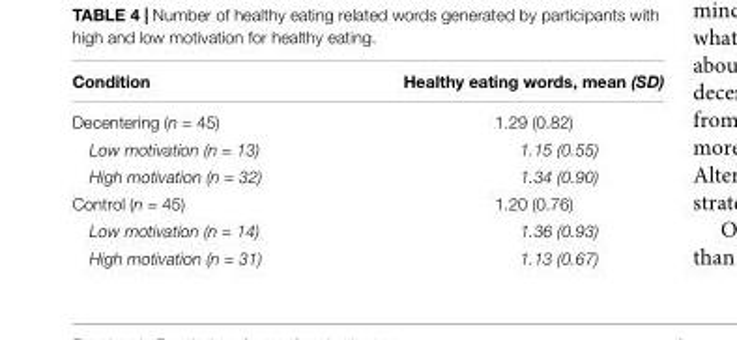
<table><thead><tr><td>Condition</td><td>Healthy eating words, mean (SD)</td></tr></thead><tbody><tr><td>Decentering (n = 45)</td><td>1.29 (0.82)</td></tr><tr><td>Low motivation (n = 13)</td><td>1.15 (0.55)</td></tr><tr><td>High motivation (n = 32)</td><td>1.34 (0.90)</td></tr><tr><td>Control (n = 45)</td><td>1.20 (0.76)</td></tr><tr><td>Low motivation (n = 14)</td><td>1.36 (0.93)</td></tr><tr><td>High motivation (n = 31)</td><td>1.13 (0.67)</td></tr></tbody></table>